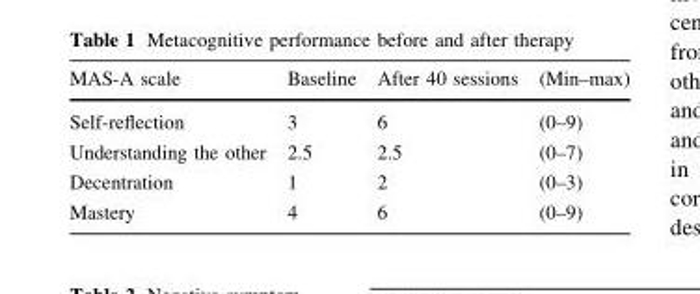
<table><thead><tr><td>MAS-A scale</td><td>Baseline</td><td>After 40 sessions</td><td>(Min–max)</td></tr></thead><tbody><tr><td>Self-reflection</td><td>3</td><td>6</td><td>(0–9)</td></tr><tr><td>Understanding the other</td><td>2.5</td><td>2.5</td><td>(0–7)</td></tr><tr><td>Decentration</td><td>1</td><td>2</td><td>(0–3)</td></tr><tr><td>Mastery</td><td>4</td><td>6</td><td>(0–9)</td></tr></tbody></table>